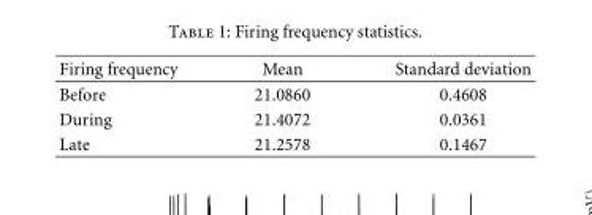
<table><thead><tr><td>Firing frequency</td><td>Mean</td><td>Standard deviation</td></tr></thead><tbody><tr><td>Before</td><td>21.0860</td><td>0.4608</td></tr><tr><td>During</td><td>21.4072</td><td>0.0361</td></tr><tr><td>Late</td><td>21.2578</td><td>0.1467</td></tr></tbody></table>